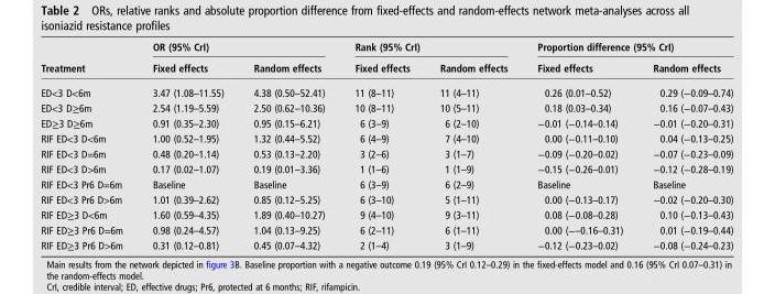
<table><thead><tr><td rowspan="2">Treatment</td><td colspan="2">OR (95% CrI)</td><td colspan="2">Rank (95% CrI)</td><td colspan="2">Proportion difference (95% CrI)</td></tr><tr><td>Fixed effects</td><td>Random effects</td><td>Fixed effects</td><td>Random effects</td><td>Fixed effects</td><td>Random effects</td></tr></thead><tbody><tr><td>ED&lt;3 D&lt;6m</td><td>3.47 (1.08–11.55)</td><td>4.38 (0.50–52.41)</td><td>11 (8–11)</td><td>11 (4–11)</td><td>0.26 (0.01–0.52)</td><td>0.29 (−0.09–0.74)</td></tr><tr><td>ED&lt;3 D≥6m</td><td>2.54 (1.19–5.59)</td><td>2.50 (0.62–10.36)</td><td>10 (8–11)</td><td>10 (5–11)</td><td>0.18 (0.03–0.34)</td><td>0.16 (−0.07–0.43)</td></tr><tr><td>ED≥3 D≥6m</td><td>0.91 (0.35–2.30)</td><td>0.95 (0.15–6.21)</td><td>6 (3–9)</td><td>6 (2–10)</td><td>−0.01 (−0.14–0.14)</td><td>−0.01 (−0.20–0.31)</td></tr><tr><td>RIF ED&lt;3 D&lt;6m</td><td>1.00 (0.52–1.95)</td><td>1.32 (0.44–5.52)</td><td>6 (4–9)</td><td>7 (4–10)</td><td>0.00 (−0.11–0.10)</td><td>0.04 (−0.13–0.25)</td></tr><tr><td>RIF ED&lt;3 D=6m</td><td>0.48 (0.20–1.14)</td><td>0.53 (0.13–2.20)</td><td>3 (2–6)</td><td>3 (1–7)</td><td>−0.09 (−0.20–0.02)</td><td>−0.07 (−0.23–0.09)</td></tr><tr><td>RIF ED&lt;3 D&gt;6m</td><td>0.17 (0.02–1.07)</td><td>0.19 (0.01–3.36)</td><td>1 (1–6)</td><td>1 (1–9)</td><td>−0.15 (−0.26–0.01)</td><td>−0.12 (−0.28–0.19)</td></tr><tr><td>RIF ED&lt;3 Pr6 D=6m</td><td>Baseline</td><td>Baseline</td><td>6 (3–9)</td><td>6 (2–9)</td><td>Baseline</td><td>Baseline</td></tr><tr><td>RIF ED&lt;3 Pr6 D&gt;6m</td><td>1.01 (0.39–2.62)</td><td>0.85 (0.12–5.25)</td><td>6 (3–10)</td><td>5 (1–11)</td><td>0.00 (−0.13–0.17)</td><td>−0.02 (−0.20–0.30)</td></tr><tr><td>RIF ED≥3 D&lt;6m</td><td>1.60 (0.59–4.35)</td><td>1.89 (0.40–10.27)</td><td>9 (4–10)</td><td>9 (3–11)</td><td>0.08 (−0.08–0.28)</td><td>0.10 (−0.13–0.43)</td></tr><tr><td>RIF ED≥3 Pr6 D=6m</td><td>0.98 (0.24–4.57)</td><td>1.04 (0.13–9.25)</td><td>6 (2–11)</td><td>6 (1–11)</td><td>0.00 (−–0.16–0.31)</td><td>0.01 (−0.19–0.44)</td></tr><tr><td>RIF ED≥3 Pr6 D&gt;6m</td><td>0.31 (0.12–0.81)</td><td>0.45 (0.07–4.32)</td><td>2 (1–4)</td><td>3 (1–9)</td><td>−0.12 (−0.23–0.02)</td><td>−0.08 (−0.24–0.23)</td></tr></tbody></table>